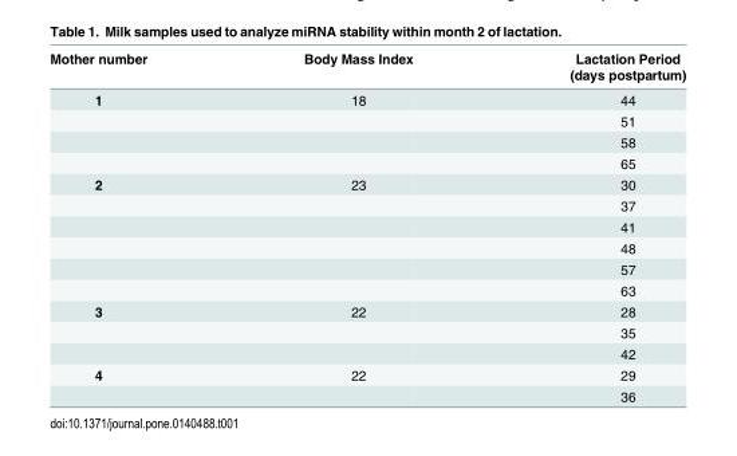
<table><thead><tr><td rowspan="2">Mother number</td><td rowspan="2">Body Mass Index</td><td rowspan="2">Lactation Period (days postpartum)</td></tr><tr></tr></thead><tbody><tr><td rowspan="4">1</td><td>18</td><td>44</td></tr><tr><td></td><td>51</td></tr><tr><td></td><td>58</td></tr><tr><td></td><td>65</td></tr><tr><td rowspan="6">2</td><td>23</td><td>30</td></tr><tr><td></td><td>37</td></tr><tr><td></td><td>41</td></tr><tr><td></td><td>48</td></tr><tr><td></td><td>57</td></tr><tr><td></td><td>63</td></tr><tr><td rowspan="3">3</td><td>22</td><td>28</td></tr><tr><td></td><td>35</td></tr><tr><td></td><td>42</td></tr><tr><td rowspan="2">4</td><td>22</td><td>29</td></tr><tr><td></td><td>36</td></tr></tbody></table>